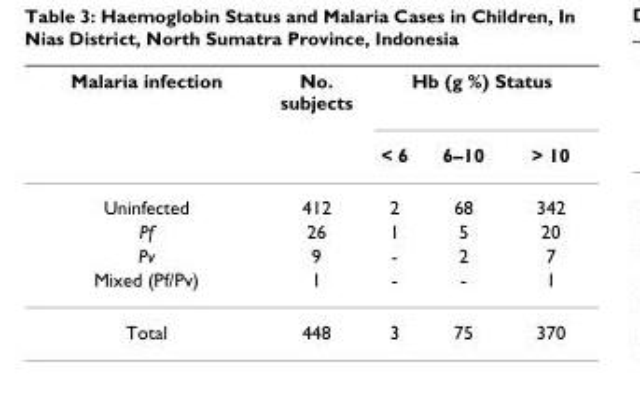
<table><thead><tr><td rowspan="2">Malaria infection</td><td rowspan="2">No. subjects</td><td colspan="3">Hb (g %) Status</td></tr><tr><td>&lt; 6</td><td>6–10</td><td>&gt; 10</td></tr></thead><tbody><tr><td>Uninfected</td><td>412</td><td>2</td><td>68</td><td>342</td></tr><tr><td>Pf</td><td>26</td><td>1</td><td>5</td><td>20</td></tr><tr><td>Pv</td><td>9</td><td>-</td><td>2</td><td>7</td></tr><tr><td>Mixed (Pf/Pv)</td><td>1</td><td>-</td><td>-</td><td>1</td></tr><tr><td>Total</td><td>448</td><td>3</td><td>75</td><td>370</td></tr></tbody></table>